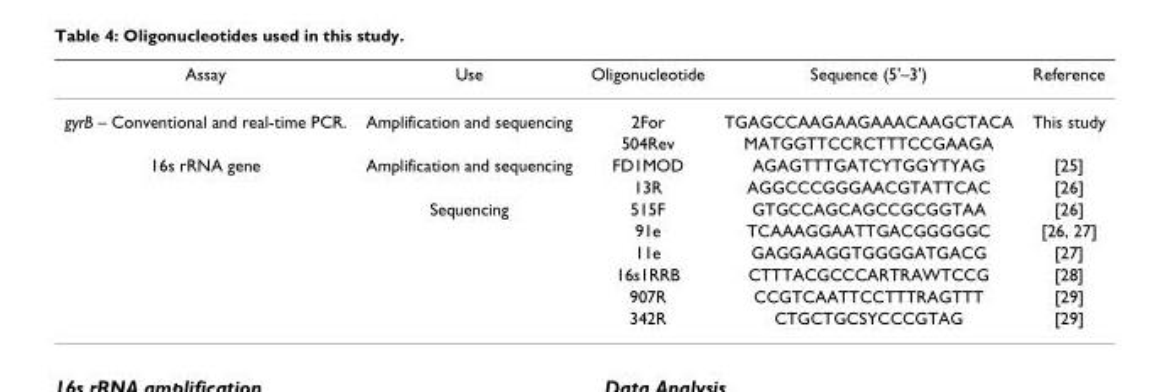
<table><thead><tr><td>Assay</td><td>Use</td><td>Oligonucleotide</td><td>Sequence (5&#x27;–3&#x27;)</td><td>Reference</td></tr></thead><tbody><tr><td rowspan="2">gyrB – Conventional and real-time PCR.</td><td>Amplification and sequencing</td><td>2For</td><td>TGAGCCAAGAAGAAACAAGCTACA</td><td>This study</td></tr><tr><td></td><td>504Rev</td><td>MATGGTTCCRCTTTCCGAAGA</td><td></td></tr><tr><td rowspan="8">16s rRNA gene</td><td>Amplification and sequencing</td><td>FD1MOD</td><td>AGAGTTTGATCYTGGYTYAG</td><td>[25]</td></tr><tr><td></td><td>13R</td><td>AGGCCCGGGAACGTATTCAC</td><td>[26]</td></tr><tr><td>Sequencing</td><td>515F</td><td>GTGCCAGCAGCCGCGGTAA</td><td>[26]</td></tr><tr><td></td><td>91e</td><td>TCAAAGGAATTGACGGGGGC</td><td>[26, 27]</td></tr><tr><td></td><td>11e</td><td>GAGGAAGGTGGGGATGACG</td><td>[27]</td></tr><tr><td></td><td>16s1RRB</td><td>CTTTACGCCCARTRAWTCCG</td><td>[28]</td></tr><tr><td></td><td>907R</td><td>CCGTCAATTCCTTTRAGTTT</td><td>[29]</td></tr><tr><td></td><td>342R</td><td>CTGCTGCSYCCCGTAG</td><td>[29]</td></tr></tbody></table>